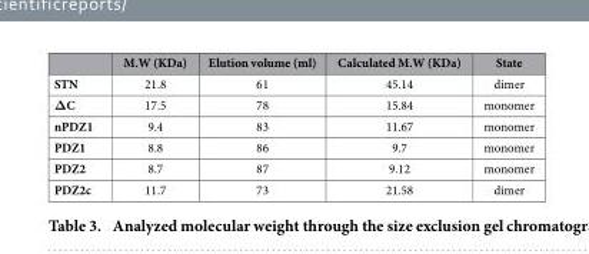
<table><thead><tr><td></td><td>M.W (KDa)</td><td>Elution volume (ml)</td><td>Calculated M.W (KDa)</td><td>State</td></tr></thead><tbody><tr><td>STN</td><td>21.8</td><td>61</td><td>45.14</td><td>dimer</td></tr><tr><td>ΔC</td><td>17.5</td><td>78</td><td>15.84</td><td>monomer</td></tr><tr><td>nPDZ1</td><td>9.4</td><td>83</td><td>11.67</td><td>monomer</td></tr><tr><td>PDZ1</td><td>8.8</td><td>86</td><td>9.7</td><td>monomer</td></tr><tr><td>PDZ2</td><td>8.7</td><td>87</td><td>9.12</td><td>monomer</td></tr><tr><td>PDZ2c</td><td>11.7</td><td>73</td><td>21.58</td><td>dimer</td></tr></tbody></table>